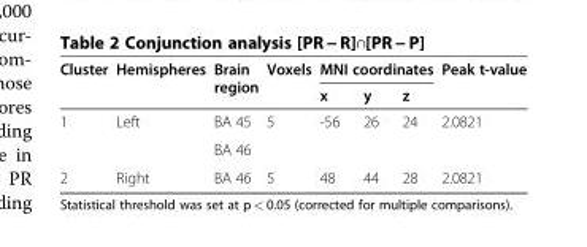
<table><thead><tr><td rowspan="2">Cluster</td><td rowspan="2">Hemispheres</td><td rowspan="2">Brain region</td><td rowspan="2">Voxels</td><td colspan="3">MNI coordinates</td><td rowspan="2">Peak t-value</td></tr><tr><td>x</td><td>y</td><td>z</td></tr></thead><tbody><tr><td rowspan="2">1</td><td>Left</td><td>BA 45</td><td>5</td><td>-56</td><td>26</td><td>24</td><td>2.0821</td></tr><tr><td></td><td>BA 46</td><td></td><td></td><td></td><td></td><td></td></tr><tr><td>2</td><td>Right</td><td>BA 46</td><td>5</td><td>48</td><td>44</td><td>28</td><td>2.0821</td></tr></tbody></table>